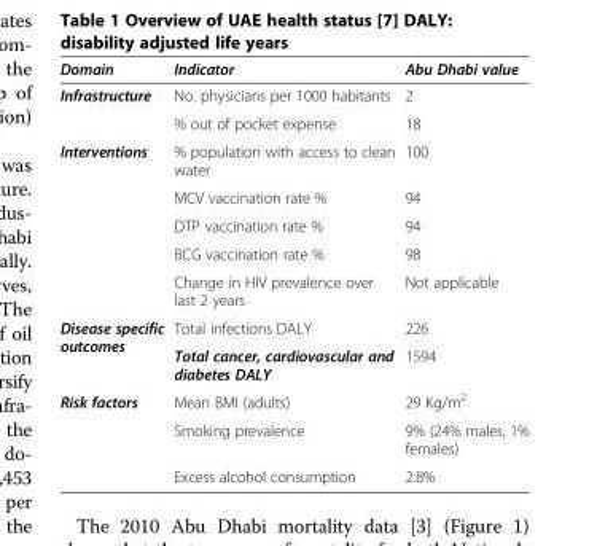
<table><thead><tr><td>Domain</td><td>Indicator</td><td>Abu Dhabi value</td></tr></thead><tbody><tr><td rowspan="2">Infrastructure</td><td>No. physicians per 1000 habitants</td><td>2</td></tr><tr><td>% out of pocket expense</td><td>18</td></tr><tr><td rowspan="5">Interventions</td><td>% population with access to clean water</td><td>100</td></tr><tr><td>MCV vaccination rate %</td><td>94</td></tr><tr><td>DTP vaccination rate %</td><td>94</td></tr><tr><td>BCG vaccination rate %</td><td>98</td></tr><tr><td>Change in HIV prevalence over last 2 years</td><td>Not applicable</td></tr><tr><td rowspan="2">Disease specific outcomes</td><td>Total infections DALY</td><td>226</td></tr><tr><td>Total cancer, cardiovascular and diabetes DALY</td><td>1594</td></tr><tr><td rowspan="3">Risk factors</td><td>Mean BMI (adults)</td><td>29 Kg/m<sup>2</sup></td></tr><tr><td>Smoking prevalence</td><td>9% (24% males, 1% females)</td></tr><tr><td>Excess alcohol consumption</td><td>2.8%</td></tr></tbody></table>